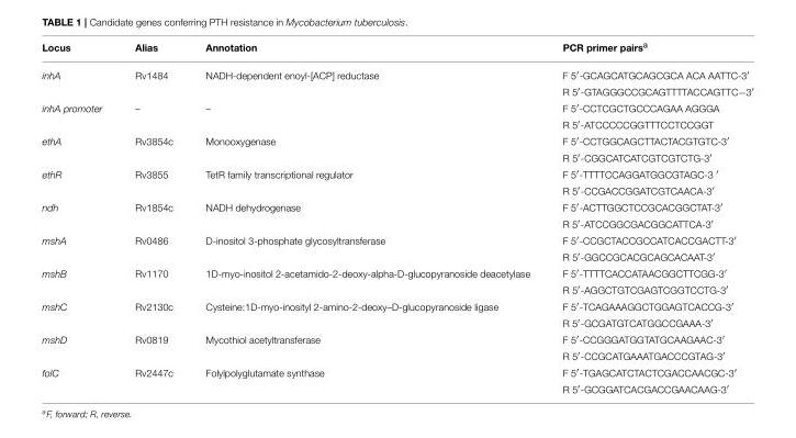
<table><thead><tr><td>Locus</td><td>Alias</td><td>Annotation</td><td>PCR primer pairs<sup>a</sup></td></tr></thead><tbody><tr><td rowspan="2">inhA</td><td>Rv1484</td><td>NADH-dependent enoyl-[ACP] reductase</td><td>F 5′-GCAGCATGCAGCGCA ACA AATTC-3′</td></tr><tr><td></td><td></td><td>R 5′-GTAGGGCCGCAGTTTTACCAGTTC−3′</td></tr><tr><td rowspan="2">inhA promoter</td><td>–</td><td>–</td><td>F 5′-CCTCGCTGCCCAGAA AGGGA</td></tr><tr><td></td><td></td><td>R 5′-ATCCCCCGGTTTCCTCCGGT</td></tr><tr><td rowspan="2">ethA</td><td>Rv3854c</td><td>Monooxygenase</td><td>F 5′-CCTGGCAGCTTACTACGTGTC-3′</td></tr><tr><td></td><td></td><td>R 5′-CGGCATCATCGTCGTCTG-3′</td></tr><tr><td rowspan="2">ethR</td><td>Rv3855</td><td>TetR family transcriptional regulator</td><td>F 5′-TTTTCCAGGATGGCGTAGC-3 ′</td></tr><tr><td></td><td></td><td>R 5′-CCGACCGGATCGTCAACA-3′</td></tr><tr><td rowspan="2">ndh</td><td>Rv1854c</td><td>NADH dehydrogenase</td><td>F 5′-ACTTGGCTCCGCACGGCTAT-3′</td></tr><tr><td></td><td></td><td>R 5′-ATCCGGCGACGGCATTCA-3′</td></tr><tr><td rowspan="2">mshA</td><td>Rv0486</td><td>D-inositol 3-phosphate glycosyltransferase</td><td>F 5′-CCGCTACCGCCATCACCGACTT-3′</td></tr><tr><td></td><td></td><td>R 5′-GGCCGCACGCAGCACAAT-3′</td></tr><tr><td rowspan="2">mshB</td><td>Rv1170</td><td>1D-myo-inositol 2-acetamido-2-deoxy-alpha-D-glucopyranoside deacetylase</td><td>F 5′-TTTTCACCATAACGGCTTCGG-3′</td></tr><tr><td></td><td></td><td>R 5′-AGGCTGTCGAGTCGGTCCTG-3′</td></tr><tr><td rowspan="2">mshC</td><td>Rv2130c</td><td>Cysteine:1D-myo-inosityl 2-amino-2-deoxy–D-glucopyranoside ligase</td><td>F 5′-TCAGAAAGGCTGGAGTCACCG-3′</td></tr><tr><td></td><td></td><td>R 5′-GCGATGTCATGGCCGAAA-3′</td></tr><tr><td rowspan="2">mshD</td><td>Rv0819</td><td>Mycothiol acetyltransferase</td><td>F 5′-CCGGGATGGTATGCAAGAAC-3′</td></tr><tr><td></td><td></td><td>R 5′-CCGCATGAAATGACCCGTAG-3′</td></tr><tr><td rowspan="2">folC</td><td>Rv2447c</td><td>Folylpolyglutamate synthase</td><td>F 5′-TGAGCATCTACTCGACCAACGC-3′</td></tr><tr><td></td><td></td><td>R 5′-GCGGATCACGACCGAACAAG-3′</td></tr></tbody></table>